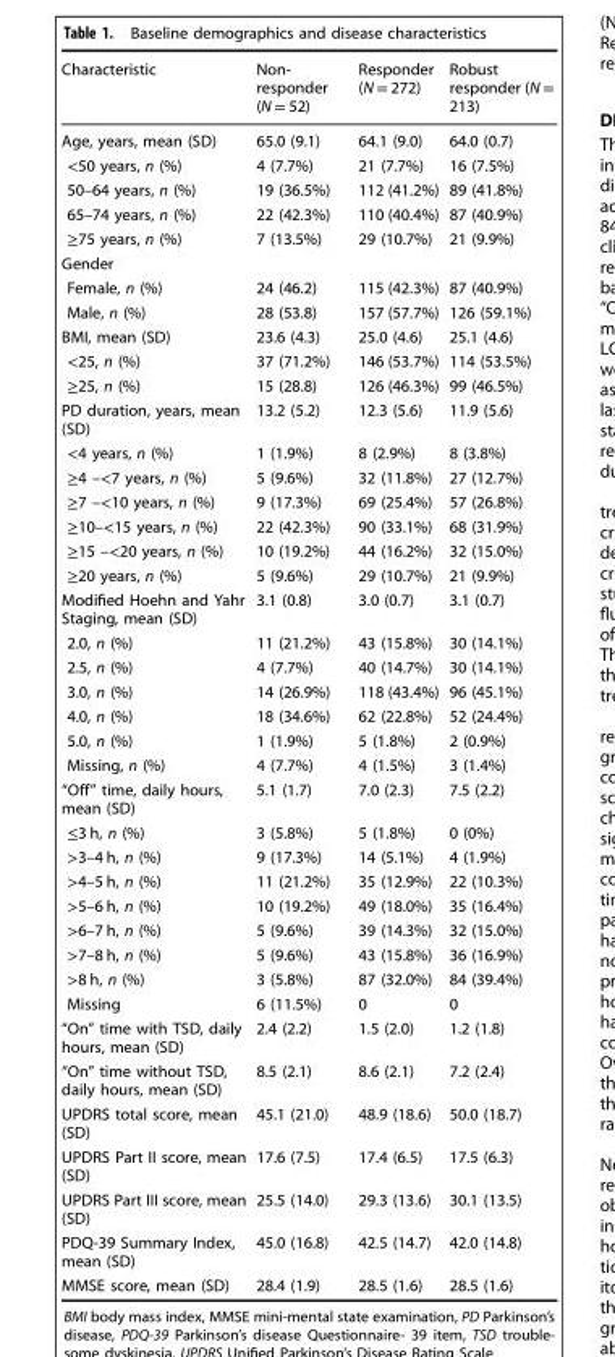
<table><thead><tr><td>Characteristic</td><td>Non- responder (N = 52)</td><td>Responder (N = 272)</td><td>Robust responder (N = 213)</td></tr></thead><tbody><tr><td>Age, years, mean (SD)</td><td>65.0 (9.1)</td><td>64.1 (9.0)</td><td>64.0 (0.7)</td></tr><tr><td>&lt;50 years, n (%)</td><td>4 (7.7%)</td><td>21 (7.7%)</td><td>16 (7.5%)</td></tr><tr><td>50–64 years, n (%)</td><td>19 (36.5%)</td><td>112 (41.2%)</td><td>89 (41.8%)</td></tr><tr><td>65–74 years, n (%)</td><td>22 (42.3%)</td><td>110 (40.4%)</td><td>87 (40.9%)</td></tr><tr><td>≥75 years, n (%)</td><td>7 (13.5%)</td><td>29 (10.7%)</td><td>21 (9.9%)</td></tr><tr><td colspan="4">Gender</td></tr><tr><td>Female, n (%)</td><td>24 (46.2)</td><td>115 (42.3%)</td><td>87 (40.9%)</td></tr><tr><td>Male, n (%)</td><td>28 (53.8)</td><td>157 (57.7%)</td><td>126 (59.1%)</td></tr><tr><td>BMI, mean (SD)</td><td>23.6 (4.3)</td><td>25.0 (4.6)</td><td>25.1 (4.6)</td></tr><tr><td>&lt;25, n (%)</td><td>37 (71.2%)</td><td>146 (53.7%)</td><td>114 (53.5%)</td></tr><tr><td>≥25, n (%)</td><td>15 (28.8)</td><td>126 (46.3%)</td><td>99 (46.5%)</td></tr><tr><td>PD duration, years, mean (SD)</td><td>13.2 (5.2)</td><td>12.3 (5.6)</td><td>11.9 (5.6)</td></tr><tr><td>&lt;4 years, n (%)</td><td>1 (1.9%)</td><td>8 (2.9%)</td><td>8 (3.8%)</td></tr><tr><td>≥4 –&lt;7 years, n (%)</td><td>5 (9.6%)</td><td>32 (11.8%)</td><td>27 (12.7%)</td></tr><tr><td>≥7 –&lt;10 years, n (%)</td><td>9 (17.3%)</td><td>69 (25.4%)</td><td>57 (26.8%)</td></tr><tr><td>≥10–&lt;15 years, n (%)</td><td>22 (42.3%)</td><td>90 (33.1%)</td><td>68 (31.9%)</td></tr><tr><td>≥15 –&lt;20 years, n (%)</td><td>10 (19.2%)</td><td>44 (16.2%)</td><td>32 (15.0%)</td></tr><tr><td>≥20 years, n (%)</td><td>5 (9.6%)</td><td>29 (10.7%)</td><td>21 (9.9%)</td></tr><tr><td>Modified Hoehn and Yahr Staging, mean (SD)</td><td>3.1 (0.8)</td><td>3.0 (0.7)</td><td>3.1 (0.7)</td></tr><tr><td>2.0, n (%)</td><td>11 (21.2%)</td><td>43 (15.8%)</td><td>30 (14.1%)</td></tr><tr><td>2.5, n (%)</td><td>4 (7.7%)</td><td>40 (14.7%)</td><td>30 (14.1%)</td></tr><tr><td>3.0, n (%)</td><td>14 (26.9%)</td><td>118 (43.4%)</td><td>96 (45.1%)</td></tr><tr><td>4.0, n (%)</td><td>18 (34.6%)</td><td>62 (22.8%)</td><td>52 (24.4%)</td></tr><tr><td>5.0, n (%)</td><td>1 (1.9%)</td><td>5 (1.8%)</td><td>2 (0.9%)</td></tr><tr><td>Missing, n (%)</td><td>4 (7.7%)</td><td>4 (1.5%)</td><td>3 (1.4%)</td></tr><tr><td>“Off” time, daily hours, mean (SD)</td><td>5.1 (1.7)</td><td>7.0 (2.3)</td><td>7.5 (2.2)</td></tr><tr><td>≤3 h, n (%)</td><td>3 (5.8%)</td><td>5 (1.8%)</td><td>0 (0%)</td></tr><tr><td>&gt;3–4 h, n (%)</td><td>9 (17.3%)</td><td>14 (5.1%)</td><td>4 (1.9%)</td></tr><tr><td>&gt;4–5 h, n (%)</td><td>11 (21.2%)</td><td>35 (12.9%)</td><td>22 (10.3%)</td></tr><tr><td>&gt;5–6 h, n (%)</td><td>10 (19.2%)</td><td>49 (18.0%)</td><td>35 (16.4%)</td></tr><tr><td>&gt;6–7 h, n (%)</td><td>5 (9.6%)</td><td>39 (14.3%)</td><td>32 (15.0%)</td></tr><tr><td>&gt;7–8 h, n (%)</td><td>5 (9.6%)</td><td>43 (15.8%)</td><td>36 (16.9%)</td></tr><tr><td>&gt;8 h, n (%)</td><td>3 (5.8%)</td><td>87 (32.0%)</td><td>84 (39.4%)</td></tr><tr><td>Missing</td><td>6 (11.5%)</td><td>0</td><td>0</td></tr><tr><td>“On” time with TSD, daily hours, mean (SD)</td><td>2.4 (2.2)</td><td>1.5 (2.0)</td><td>1.2 (1.8)</td></tr><tr><td>“On” time without TSD, daily hours, mean (SD)</td><td>8.5 (2.1)</td><td>8.6 (2.1)</td><td>7.2 (2.4)</td></tr><tr><td>UPDRS total score, mean (SD)</td><td>45.1 (21.0)</td><td>48.9 (18.6)</td><td>50.0 (18.7)</td></tr><tr><td>UPDRS Part II score, mean (SD)</td><td>17.6 (7.5)</td><td>17.4 (6.5)</td><td>17.5 (6.3)</td></tr><tr><td>UPDRS Part III score, mean (SD)</td><td>25.5 (14.0)</td><td>29.3 (13.6)</td><td>30.1 (13.5)</td></tr><tr><td>PDQ-39 Summary Index, mean (SD)</td><td>45.0 (16.8)</td><td>42.5 (14.7)</td><td>42.0 (14.8)</td></tr><tr><td>MMSE score, mean (SD)</td><td>28.4 (1.9)</td><td>28.5 (1.6)</td><td>28.5 (1.6)</td></tr></tbody></table>